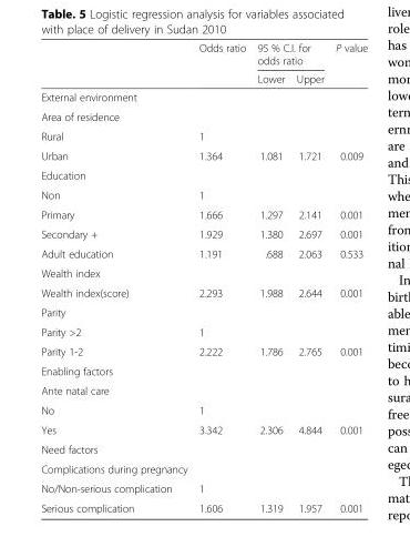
<table><thead><tr><td rowspan="2"></td><td rowspan="2">Odds ratio</td><td colspan="2">95 % C.I. for odds ratio</td><td rowspan="2">P value</td></tr><tr><td>Lower</td><td>Upper</td></tr></thead><tbody><tr><td colspan="5">External environment</td></tr><tr><td colspan="5">Area of residence</td></tr><tr><td>Rural</td><td>1</td><td></td><td></td><td></td></tr><tr><td>Urban</td><td>1.364</td><td>1.081</td><td>1.721</td><td>0.009</td></tr><tr><td colspan="5">Education</td></tr><tr><td>Non</td><td>1</td><td></td><td></td><td></td></tr><tr><td>Primary</td><td>1.666</td><td>1.297</td><td>2.141</td><td>0.001</td></tr><tr><td>Secondary +</td><td>1.929</td><td>1.380</td><td>2.697</td><td>0.001</td></tr><tr><td>Adult education</td><td>1.191</td><td>.688</td><td>2.063</td><td>0.533</td></tr><tr><td colspan="5">Wealth index</td></tr><tr><td>Wealth index(score)</td><td>2.293</td><td>1.988</td><td>2.644</td><td>0.001</td></tr><tr><td colspan="5">Parity</td></tr><tr><td>Parity &gt;2</td><td>1</td><td></td><td></td><td></td></tr><tr><td>Parity 1-2</td><td>2.222</td><td>1.786</td><td>2.765</td><td>0.001</td></tr><tr><td colspan="5">Enabling factors</td></tr><tr><td colspan="5">Ante natal care</td></tr><tr><td>No</td><td>1</td><td></td><td></td><td></td></tr><tr><td>Yes</td><td>3.342</td><td>2.306</td><td>4.844</td><td>0.001</td></tr><tr><td colspan="5">Need factors</td></tr><tr><td colspan="5">Complications during pregnancy</td></tr><tr><td>No/Non-serious complication</td><td>1</td><td></td><td></td><td></td></tr><tr><td>Serious complication</td><td>1.606</td><td>1.319</td><td>1.957</td><td>0.001</td></tr></tbody></table>